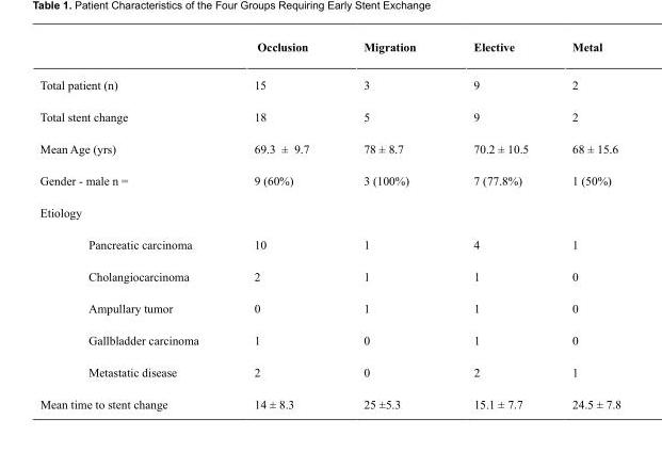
<table><thead><tr><td></td><td>Occlusion</td><td>Migration</td><td>Elective</td><td>Metal</td></tr></thead><tbody><tr><td>Total patient (n)</td><td>15</td><td>3</td><td>9</td><td>2</td></tr><tr><td>Total stent change</td><td>18</td><td>5</td><td>9</td><td>2</td></tr><tr><td>Mean Age (yrs)</td><td>69.3 ± 9.7</td><td>78 ± 8.7</td><td>70.2 ± 10.5</td><td>68 ± 15.6</td></tr><tr><td>Gender - male n =</td><td>9 (60%)</td><td>3 (100%)</td><td>7 (77.8%)</td><td>1 (50%)</td></tr><tr><td colspan="5">Etiology</td></tr><tr><td>Pancreatic carcinoma</td><td>10</td><td>1</td><td>4</td><td>1</td></tr><tr><td>Cholangiocarcinoma</td><td>2</td><td>1</td><td>1</td><td>0</td></tr><tr><td>Ampullary tumor</td><td>0</td><td>1</td><td>1</td><td>0</td></tr><tr><td>Gallbladder carcinoma</td><td>1</td><td>0</td><td>1</td><td>0</td></tr><tr><td>Metastatic disease</td><td>2</td><td>0</td><td>2</td><td>1</td></tr><tr><td>Mean time to stent change</td><td>14 ± 8.3</td><td>25 ±5.3</td><td>15.1 ± 7.7</td><td>24.5 ± 7.8</td></tr></tbody></table>